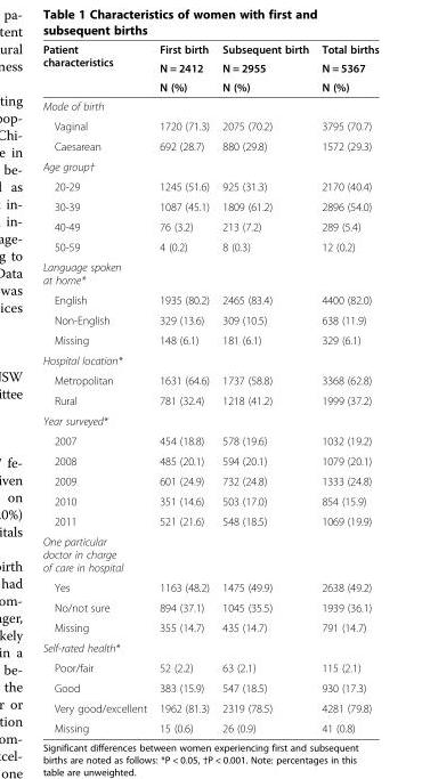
<table><thead><tr><td rowspan="3">Patient characteristics</td><td rowspan="3">First birth N = 2412 N (%)</td><td rowspan="3">Subsequent birth N = 2955 N (%)</td><td rowspan="3">Total births N = 5367 N (%)</td></tr><tr></tr><tr></tr></thead><tbody><tr><td colspan="4">Mode of birth</td></tr><tr><td>Vaginal</td><td>1720 (71.3)</td><td>2075 (70.2)</td><td>3795 (70.7)</td></tr><tr><td>Caesarean</td><td>692 (28.7)</td><td>880 (29.8)</td><td>1572 (29.3)</td></tr><tr><td colspan="4">Age group†</td></tr><tr><td>20-29</td><td>1245 (51.6)</td><td>925 (31.3)</td><td>2170 (40.4)</td></tr><tr><td>30-39</td><td>1087 (45.1)</td><td>1809 (61.2)</td><td>2896 (54.0)</td></tr><tr><td>40-49</td><td>76 (3.2)</td><td>213 (7.2)</td><td>289 (5.4)</td></tr><tr><td>50-59</td><td>4 (0.2)</td><td>8 (0.3)</td><td>12 (0.2)</td></tr><tr><td colspan="4">Language spoken at home*</td></tr><tr><td>English</td><td>1935 (80.2)</td><td>2465 (83.4)</td><td>4400 (82.0)</td></tr><tr><td>Non-English</td><td>329 (13.6)</td><td>309 (10.5)</td><td>638 (11.9)</td></tr><tr><td>Missing</td><td>148 (6.1)</td><td>181 (6.1)</td><td>329 (6.1)</td></tr><tr><td colspan="4">Hospital location*</td></tr><tr><td>Metropolitan</td><td>1631 (64.6)</td><td>1737 (58.8)</td><td>3368 (62.8)</td></tr><tr><td>Rural</td><td>781 (32.4)</td><td>1218 (41.2)</td><td>1999 (37.2)</td></tr><tr><td colspan="4">Year surveyed*</td></tr><tr><td>2007</td><td>454 (18.8)</td><td>578 (19.6)</td><td>1032 (19.2)</td></tr><tr><td>2008</td><td>485 (20.1)</td><td>594 (20.1)</td><td>1079 (20.1)</td></tr><tr><td>2009</td><td>601 (24.9)</td><td>732 (24.8)</td><td>1333 (24.8)</td></tr><tr><td>2010</td><td>351 (14.6)</td><td>503 (17.0)</td><td>854 (15.9)</td></tr><tr><td>2011</td><td>521 (21.6)</td><td>548 (18.5)</td><td>1069 (19.9)</td></tr><tr><td colspan="4">One particular doctor in charge of care in hospital</td></tr><tr><td>Yes</td><td>1163 (48.2)</td><td>1475 (49.9)</td><td>2638 (49.2)</td></tr><tr><td>No/not sure</td><td>894 (37.1)</td><td>1045 (35.5)</td><td>1939 (36.1)</td></tr><tr><td>Missing</td><td>355 (14.7)</td><td>435 (14.7)</td><td>791 (14.7)</td></tr><tr><td colspan="4">Self-rated health*</td></tr><tr><td>Poor/fair</td><td>52 (2.2)</td><td>63 (2.1)</td><td>115 (2.1)</td></tr><tr><td>Good</td><td>383 (15.9)</td><td>547 (18.5)</td><td>930 (17.3)</td></tr><tr><td>Very good/excellent</td><td>1962 (81.3)</td><td>2319 (78.5)</td><td>4281 (79.8)</td></tr><tr><td>Missing</td><td>15 (0.6)</td><td>26 (0.9)</td><td>41 (0.8)</td></tr></tbody></table>